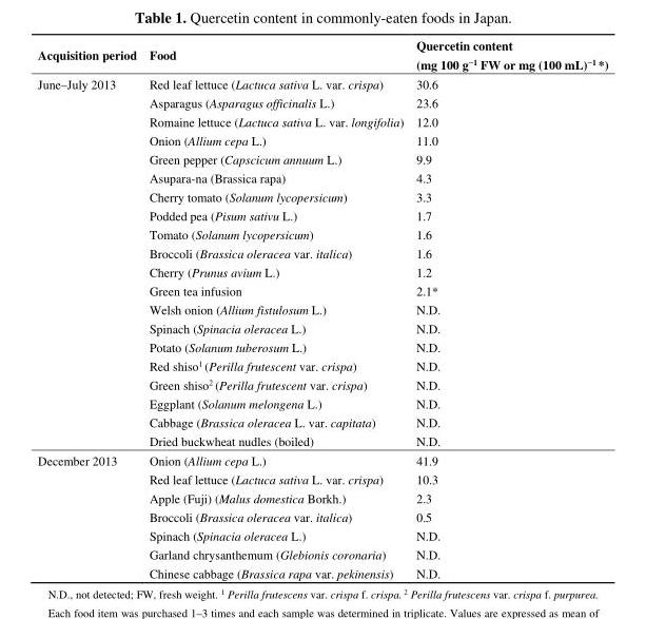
<table><thead><tr><td rowspan="2">Acquisition period</td><td rowspan="2">Food</td><td rowspan="2">Quercetin content (mg 100 g<sup>−1</sup> FW or mg (100 mL)<sup>−1</sup> *)</td></tr><tr></tr></thead><tbody><tr><td rowspan="20">June–July 2013</td><td>Red leaf lettuce (Lactuca sativa L. var. crispa)</td><td>30.6</td></tr><tr><td>Asparagus (Asparagus officinalis L.)</td><td>23.6</td></tr><tr><td>Romaine lettuce (Lactuca sativa L. var. longifolia)</td><td>12.0</td></tr><tr><td>Onion (Allium cepa L.)</td><td>11.0</td></tr><tr><td>Green pepper (Capscicum annuum L.)</td><td>9.9</td></tr><tr><td>Asupara-na (Brassica rapa)</td><td>4.3</td></tr><tr><td>Cherry tomato (Solanum lycopersicum)</td><td>3.3</td></tr><tr><td>Podded pea (Pisum sativu L.)</td><td>1.7</td></tr><tr><td>Tomato (Solanum lycopersicum)</td><td>1.6</td></tr><tr><td>Broccoli (Brassica oleracea var. italica)</td><td>1.6</td></tr><tr><td>Cherry (Prunus avium L.)</td><td>1.2</td></tr><tr><td>Green tea infusion</td><td>2.1*</td></tr><tr><td>Welsh onion (Allium fistulosum L.)</td><td>N.D.</td></tr><tr><td>Spinach (Spinacia oleracea L.)</td><td>N.D.</td></tr><tr><td>Potato (Solanum tuberosum L.)</td><td>N.D.</td></tr><tr><td>Red shiso<sup>1</sup> (Perilla frutescent var. crispa)</td><td>N.D.</td></tr><tr><td>Green shiso<sup>2</sup> (Perilla frutescent var. crispa)</td><td>N.D.</td></tr><tr><td>Eggplant (Solanum melongena L.)</td><td>N.D.</td></tr><tr><td>Cabbage (Brassica oleracea L. var. capitata)</td><td>N.D.</td></tr><tr><td>Dried buckwheat nudles (boiled)</td><td>N.D.</td></tr><tr><td rowspan="7">December 2013</td><td>Onion (Allium cepa L.)</td><td>41.9</td></tr><tr><td>Red leaf lettuce (Lactuca sativa L. var. crispa)</td><td>10.3</td></tr><tr><td>Apple (Fuji) (Malus domestica Borkh.)</td><td>2.3</td></tr><tr><td>Broccoli (Brassica oleracea var. italica)</td><td>0.5</td></tr><tr><td>Spinach (Spinacia oleracea L.)</td><td>N.D.</td></tr><tr><td>Garland chrysanthemum (Glebionis coronaria)</td><td>N.D.</td></tr><tr><td>Chinese cabbage (Brassica rapa var. pekinensis)</td><td>N.D.</td></tr></tbody></table>